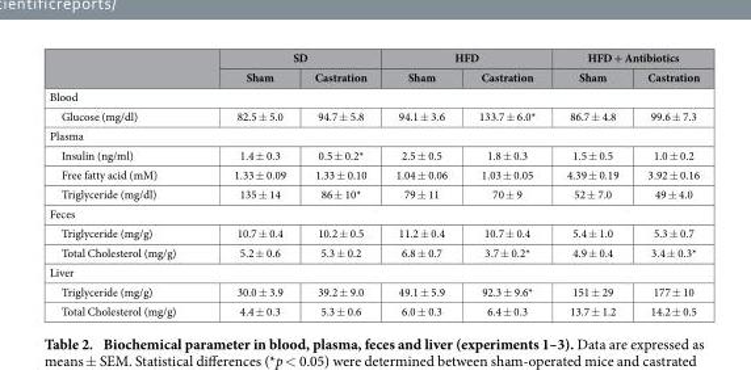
<table><thead><tr><td rowspan="2"></td><td colspan="2">SD</td><td colspan="2">HFD</td><td colspan="2">HFD + Antibiotics</td></tr><tr><td>Sham</td><td>Castration</td><td>Sham</td><td>Castration</td><td>Sham</td><td>Castration</td></tr></thead><tbody><tr><td colspan="7">Blood</td></tr><tr><td>Glucose (mg/dl)</td><td>82.5 ± 5.0</td><td>94.7 ± 5.8</td><td>94.1 ± 3.6</td><td>133.7 ± 6.0*</td><td>86.7 ± 4.8</td><td>99.6 ± 7.3</td></tr><tr><td colspan="7">Plasma</td></tr><tr><td>Insulin (ng/ml)</td><td>1.4 ± 0.3</td><td>0.5 ± 0.2*</td><td>2.5 ± 0.5</td><td>1.8 ± 0.3</td><td>1.5 ± 0.5</td><td>1.0 ± 0.2</td></tr><tr><td>Free fatty acid (mM)</td><td>1.33 ± 0.09</td><td>1.33 ± 0.10</td><td>1.04 ± 0.06</td><td>1.03 ± 0.05</td><td>4.39 ± 0.19</td><td>3.92 ± 0.16</td></tr><tr><td>Triglyceride (mg/dl)</td><td>135 ± 14</td><td>86 ± 10*</td><td>79 ± 11</td><td>70 ± 9</td><td>52 ± 7.0</td><td>49 ± 4.0</td></tr><tr><td colspan="7">Feces</td></tr><tr><td>Triglyceride (mg/g)</td><td>10.7 ± 0.4</td><td>10.2 ± 0.5</td><td>11.2 ± 0.4</td><td>10.7 ± 0.4</td><td>5.4 ± 1.0</td><td>5.3 ± 0.7</td></tr><tr><td>Total Cholesterol (mg/g)</td><td>5.2 ± 0.6</td><td>5.3 ± 0.2</td><td>6.8 ± 0.7</td><td>3.7 ± 0.2*</td><td>4.9 ± 0.4</td><td>3.4 ± 0.3*</td></tr><tr><td colspan="7">Liver</td></tr><tr><td>Triglyceride (mg/g)</td><td>30.0 ± 3.9</td><td>39.2 ± 9.0</td><td>49.1 ± 5.9</td><td>92.3 ± 9.6*</td><td>151 ± 29</td><td>177 ± 10</td></tr><tr><td>Total Cholesterol (mg/g)</td><td>4.4 ± 0.3</td><td>5.3 ± 0.6</td><td>6.0 ± 0.3</td><td>6.4 ± 0.3</td><td>13.7 ± 1.2</td><td>14.2 ± 0.5</td></tr></tbody></table>